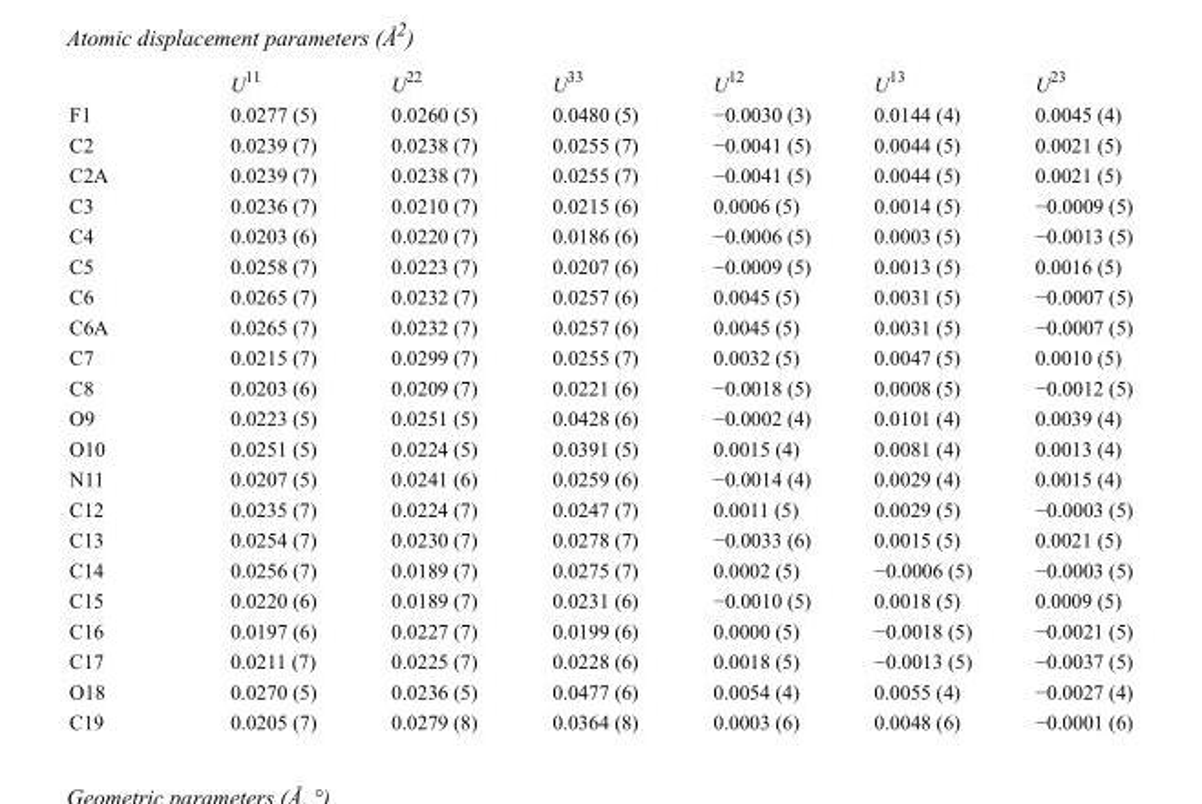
<table><thead><tr><td></td><td>U<sup>11</sup></td><td>U<sup>22</sup></td><td>U<sup>33</sup></td><td>U<sup>12</sup></td><td>U<sup>13</sup></td><td>U<sup>23</sup></td></tr></thead><tbody><tr><td>F1</td><td>0.0277 (5)</td><td>0.0260 (5)</td><td>0.0480 (5)</td><td>−0.0030 (3)</td><td>0.0144 (4)</td><td>0.0045 (4)</td></tr><tr><td>C2</td><td>0.0239 (7)</td><td>0.0238 (7)</td><td>0.0255 (7)</td><td>−0.0041 (5)</td><td>0.0044 (5)</td><td>0.0021 (5)</td></tr><tr><td>C2A</td><td>0.0239 (7)</td><td>0.0238 (7)</td><td>0.0255 (7)</td><td>−0.0041 (5)</td><td>0.0044 (5)</td><td>0.0021 (5)</td></tr><tr><td>C3</td><td>0.0236 (7)</td><td>0.0210 (7)</td><td>0.0215 (6)</td><td>0.0006 (5)</td><td>0.0014 (5)</td><td>−0.0009 (5)</td></tr><tr><td>C4</td><td>0.0203 (6)</td><td>0.0220 (7)</td><td>0.0186 (6)</td><td>−0.0006 (5)</td><td>0.0003 (5)</td><td>−0.0013 (5)</td></tr><tr><td>C5</td><td>0.0258 (7)</td><td>0.0223 (7)</td><td>0.0207 (6)</td><td>−0.0009 (5)</td><td>0.0013 (5)</td><td>0.0016 (5)</td></tr><tr><td>C6</td><td>0.0265 (7)</td><td>0.0232 (7)</td><td>0.0257 (6)</td><td>0.0045 (5)</td><td>0.0031 (5)</td><td>−0.0007 (5)</td></tr><tr><td>C6A</td><td>0.0265 (7)</td><td>0.0232 (7)</td><td>0.0257 (6)</td><td>0.0045 (5)</td><td>0.0031 (5)</td><td>−0.0007 (5)</td></tr><tr><td>C7</td><td>0.0215 (7)</td><td>0.0299 (7)</td><td>0.0255 (7)</td><td>0.0032 (5)</td><td>0.0047 (5)</td><td>0.0010 (5)</td></tr><tr><td>C8</td><td>0.0203 (6)</td><td>0.0209 (7)</td><td>0.0221 (6)</td><td>−0.0018 (5)</td><td>0.0008 (5)</td><td>−0.0012 (5)</td></tr><tr><td>O9</td><td>0.0223 (5)</td><td>0.0251 (5)</td><td>0.0428 (6)</td><td>−0.0002 (4)</td><td>0.0101 (4)</td><td>0.0039 (4)</td></tr><tr><td>O10</td><td>0.0251 (5)</td><td>0.0224 (5)</td><td>0.0391 (5)</td><td>0.0015 (4)</td><td>0.0081 (4)</td><td>0.0013 (4)</td></tr><tr><td>N11</td><td>0.0207 (5)</td><td>0.0241 (6)</td><td>0.0259 (6)</td><td>−0.0014 (4)</td><td>0.0029 (4)</td><td>0.0015 (4)</td></tr><tr><td>C12</td><td>0.0235 (7)</td><td>0.0224 (7)</td><td>0.0247 (7)</td><td>0.0011 (5)</td><td>0.0029 (5)</td><td>−0.0003 (5)</td></tr><tr><td>C13</td><td>0.0254 (7)</td><td>0.0230 (7)</td><td>0.0278 (7)</td><td>−0.0033 (6)</td><td>0.0015 (5)</td><td>0.0021 (5)</td></tr><tr><td>C14</td><td>0.0256 (7)</td><td>0.0189 (7)</td><td>0.0275 (7)</td><td>0.0002 (5)</td><td>−0.0006 (5)</td><td>−0.0003 (5)</td></tr><tr><td>C15</td><td>0.0220 (6)</td><td>0.0189 (7)</td><td>0.0231 (6)</td><td>−0.0010 (5)</td><td>0.0018 (5)</td><td>0.0009 (5)</td></tr><tr><td>C16</td><td>0.0197 (6)</td><td>0.0227 (7)</td><td>0.0199 (6)</td><td>0.0000 (5)</td><td>−0.0018 (5)</td><td>−0.0021 (5)</td></tr><tr><td>C17</td><td>0.0211 (7)</td><td>0.0225 (7)</td><td>0.0228 (6)</td><td>0.0018 (5)</td><td>−0.0013 (5)</td><td>−0.0037 (5)</td></tr><tr><td>O18</td><td>0.0270 (5)</td><td>0.0236 (5)</td><td>0.0477 (6)</td><td>0.0054 (4)</td><td>0.0055 (4)</td><td>−0.0027 (4)</td></tr><tr><td>C19</td><td>0.0205 (7)</td><td>0.0279 (8)</td><td>0.0364 (8)</td><td>0.0003 (6)</td><td>0.0048 (6)</td><td>−0.0001 (6)</td></tr></tbody></table>